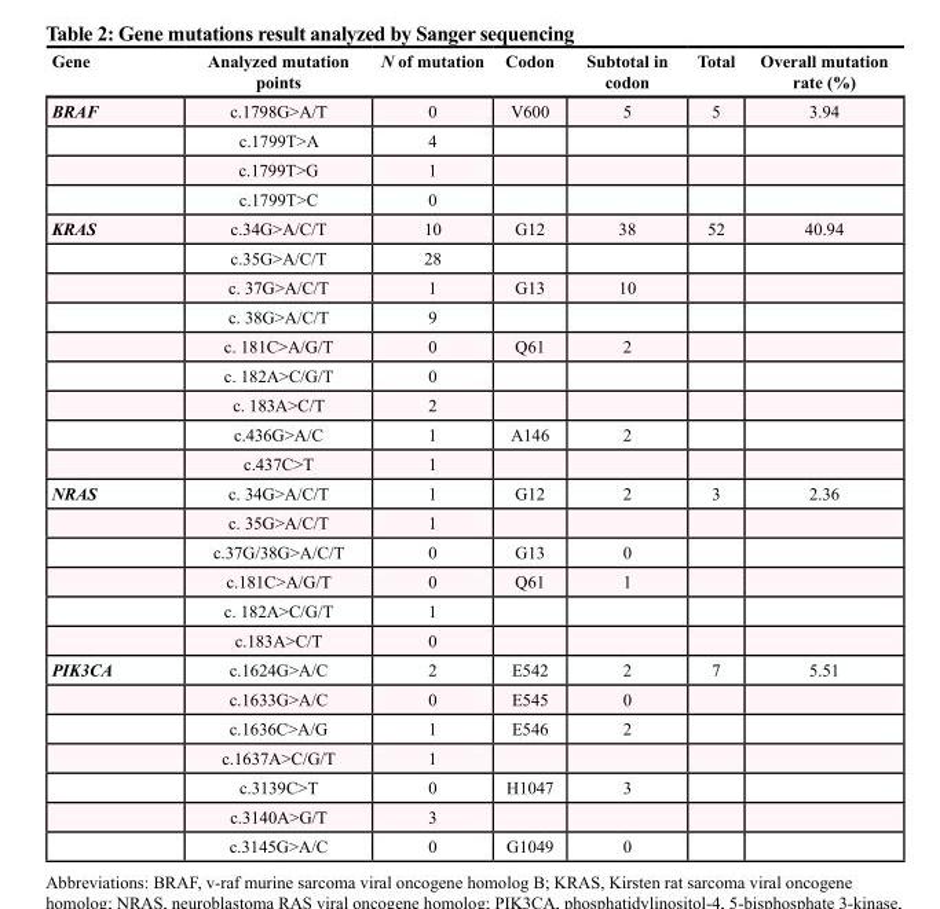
<table><thead><tr><td>Gene</td><td>Analyzed mutation points</td><td>N of mutation</td><td>Codon</td><td>Subtotal in codon</td><td>Total</td><td>Overall mutation rate (%)</td></tr></thead><tbody><tr><td rowspan="4">BRAF</td><td>c.1798G&gt;A/T</td><td>0</td><td>V600</td><td>5</td><td>5</td><td>3.94</td></tr><tr><td>c.1799T&gt;A</td><td>4</td><td></td><td></td><td></td><td></td></tr><tr><td>c.1799T&gt;G</td><td>1</td><td></td><td></td><td></td><td></td></tr><tr><td>c.1799T&gt;C</td><td>0</td><td></td><td></td><td></td><td></td></tr><tr><td rowspan="9">KRAS</td><td>c.34G&gt;A/C/T</td><td>10</td><td>G12</td><td>38</td><td>52</td><td>40.94</td></tr><tr><td>c.35G&gt;A/C/T</td><td>28</td><td></td><td></td><td></td><td></td></tr><tr><td>c. 37G&gt;A/C/T</td><td>1</td><td>G13</td><td>10</td><td></td><td></td></tr><tr><td>c. 38G&gt;A/C/T</td><td>9</td><td></td><td></td><td></td><td></td></tr><tr><td>c. 181C&gt;A/G/T</td><td>0</td><td>Q61</td><td>2</td><td></td><td></td></tr><tr><td>c. 182A&gt;C/G/T</td><td>0</td><td></td><td></td><td></td><td></td></tr><tr><td>c. 183A&gt;C/T</td><td>2</td><td></td><td></td><td></td><td></td></tr><tr><td>c.436G&gt;A/C</td><td>1</td><td>A146</td><td>2</td><td></td><td></td></tr><tr><td>c.437C&gt;T</td><td>1</td><td></td><td></td><td></td><td></td></tr><tr><td rowspan="6">NRAS</td><td>c. 34G&gt;A/C/T</td><td>1</td><td>G12</td><td>2</td><td>3</td><td>2.36</td></tr><tr><td>c. 35G&gt;A/C/T</td><td>1</td><td></td><td></td><td></td><td></td></tr><tr><td>c.37G/38G&gt;A/C/T</td><td>0</td><td>G13</td><td>0</td><td></td><td></td></tr><tr><td>c.181C&gt;A/G/T</td><td>0</td><td>Q61</td><td>1</td><td></td><td></td></tr><tr><td>c. 182A&gt;C/G/T</td><td>1</td><td></td><td></td><td></td><td></td></tr><tr><td>c.183A&gt;C/T</td><td>0</td><td></td><td></td><td></td><td></td></tr><tr><td rowspan="7">PIK3CA</td><td>c.1624G&gt;A/C</td><td>2</td><td>E542</td><td>2</td><td>7</td><td>5.51</td></tr><tr><td>c.1633G&gt;A/C</td><td>0</td><td>E545</td><td>0</td><td></td><td></td></tr><tr><td>c.1636C&gt;A/G</td><td>1</td><td>E546</td><td>2</td><td></td><td></td></tr><tr><td>c.1637A&gt;C/G/T</td><td>1</td><td></td><td></td><td></td><td></td></tr><tr><td>c.3139C&gt;T</td><td>0</td><td>H1047</td><td>3</td><td></td><td></td></tr><tr><td>c.3140A&gt;G/T</td><td>3</td><td></td><td></td><td></td><td></td></tr><tr><td>c.3145G&gt;A/C</td><td>0</td><td>G1049</td><td>0</td><td></td><td></td></tr></tbody></table>